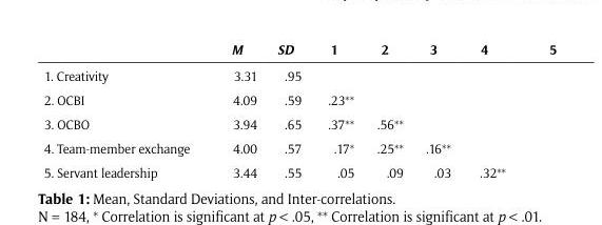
<table><thead><tr><td></td><td>M</td><td>SD</td><td>1</td><td>2</td><td>3</td><td>4</td><td>5</td></tr></thead><tbody><tr><td>1. Creativity</td><td>3.31</td><td>.95</td><td></td><td></td><td></td><td></td><td></td></tr><tr><td>2. OCBI</td><td>4.09</td><td>.59</td><td>.23**</td><td></td><td></td><td></td><td></td></tr><tr><td>3. OCBO</td><td>3.94</td><td>.65</td><td>.37**</td><td>.56**</td><td></td><td></td><td></td></tr><tr><td>4. Team-member exchange</td><td>4.00</td><td>.57</td><td>.17*</td><td>.25**</td><td>.16**</td><td></td><td></td></tr><tr><td>5. Servant leadership</td><td>3.44</td><td>.55</td><td>.05</td><td>.09</td><td>.03</td><td>.32**</td><td></td></tr></tbody></table>